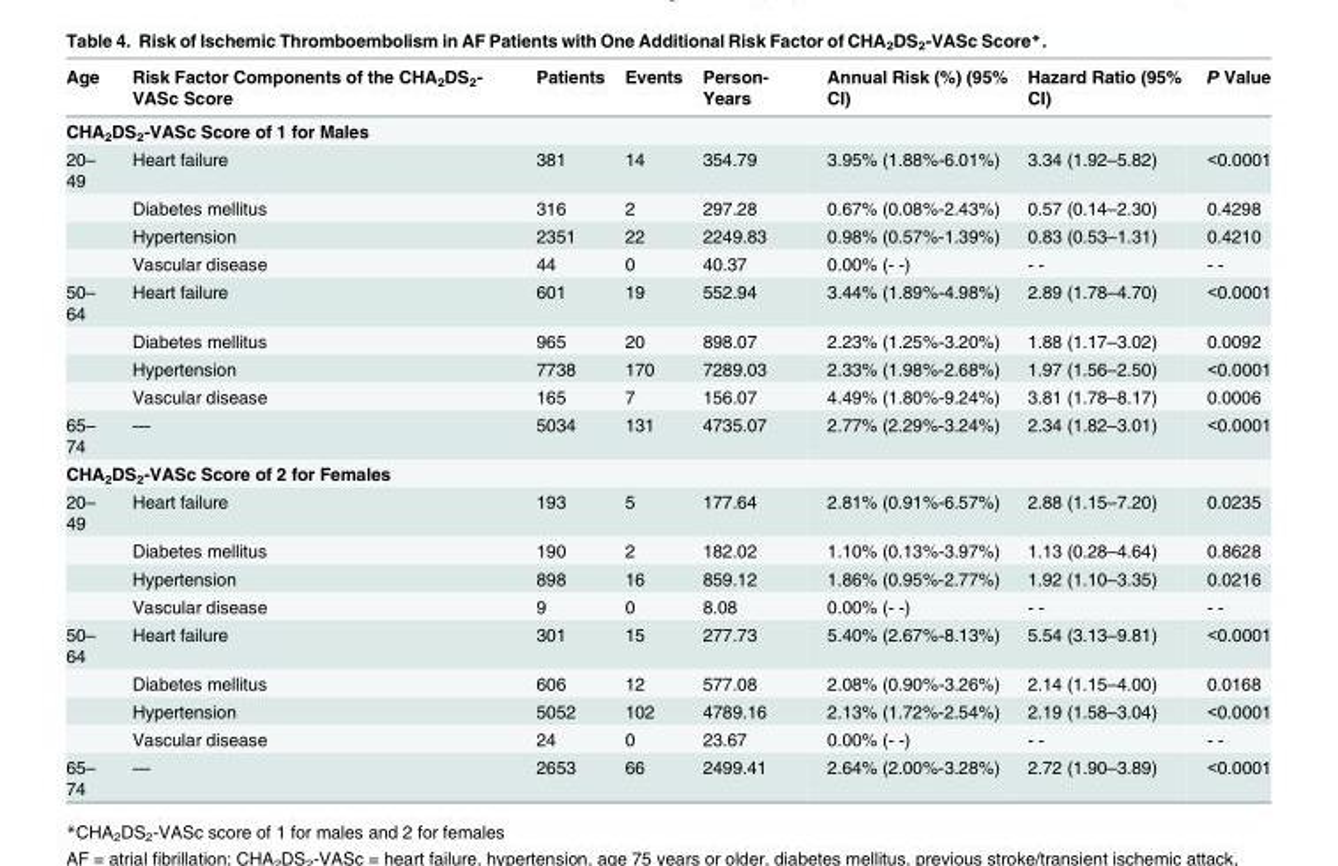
<table><thead><tr><td>Age</td><td>Risk Factor Components of the CHA<sub>2</sub>DS<sub>2</sub>- VASc Score</td><td>Patients</td><td>Events</td><td>Person- Years</td><td>Annual Risk (%) (95% CI)</td><td>Hazard Ratio (95% CI)</td><td>P Value</td></tr></thead><tbody><tr><td colspan="8">CHA<sub>2</sub>DS<sub>2</sub>-VASc Score of 1 for Males</td></tr><tr><td rowspan="4">20– 49</td><td>Heart failure</td><td>381</td><td>14</td><td>354.79</td><td>3.95% (1.88%-6.01%)</td><td>3.34 (1.92–5.82)</td><td>&lt;0.0001</td></tr><tr><td>Diabetes mellitus</td><td>316</td><td>2</td><td>297.28</td><td>0.67% (0.08%-2.43%)</td><td>0.57 (0.14–2.30)</td><td>0.4298</td></tr><tr><td>Hypertension</td><td>2351</td><td>22</td><td>2249.83</td><td>0.98% (0.57%-1.39%)</td><td>0.83 (0.53–1.31)</td><td>0.4210</td></tr><tr><td>Vascular disease</td><td>44</td><td>0</td><td>40.37</td><td>0.00% (- -)</td><td>- -</td><td>- -</td></tr><tr><td rowspan="4">50– 64</td><td>Heart failure</td><td>601</td><td>19</td><td>552.94</td><td>3.44% (1.89%-4.98%)</td><td>2.89 (1.78–4.70)</td><td>&lt;0.0001</td></tr><tr><td>Diabetes mellitus</td><td>965</td><td>20</td><td>898.07</td><td>2.23% (1.25%-3.20%)</td><td>1.88 (1.17–3.02)</td><td>0.0092</td></tr><tr><td>Hypertension</td><td>7738</td><td>170</td><td>7289.03</td><td>2.33% (1.98%-2.68%)</td><td>1.97 (1.56–2.50)</td><td>&lt;0.0001</td></tr><tr><td>Vascular disease</td><td>165</td><td>7</td><td>156.07</td><td>4.49% (1.80%-9.24%)</td><td>3.81 (1.78–8.17)</td><td>0.0006</td></tr><tr><td>65– 74</td><td>—</td><td>5034</td><td>131</td><td>4735.07</td><td>2.77% (2.29%-3.24%)</td><td>2.34 (1.82–3.01)</td><td>&lt;0.0001</td></tr><tr><td colspan="8">CHA<sub>2</sub>DS<sub>2</sub>-VASc Score of 2 for Females</td></tr><tr><td rowspan="4">20– 49</td><td>Heart failure</td><td>193</td><td>5</td><td>177.64</td><td>2.81% (0.91%-6.57%)</td><td>2.88 (1.15–7.20)</td><td>0.0235</td></tr><tr><td>Diabetes mellitus</td><td>190</td><td>2</td><td>182.02</td><td>1.10% (0.13%-3.97%)</td><td>1.13 (0.28–4.64)</td><td>0.8628</td></tr><tr><td>Hypertension</td><td>898</td><td>16</td><td>859.12</td><td>1.86% (0.95%-2.77%)</td><td>1.92 (1.10–3.35)</td><td>0.0216</td></tr><tr><td>Vascular disease</td><td>9</td><td>0</td><td>8.08</td><td>0.00% (- -)</td><td>- -</td><td>- -</td></tr><tr><td rowspan="4">50– 64</td><td>Heart failure</td><td>301</td><td>15</td><td>277.73</td><td>5.40% (2.67%-8.13%)</td><td>5.54 (3.13–9.81)</td><td>&lt;0.0001</td></tr><tr><td>Diabetes mellitus</td><td>606</td><td>12</td><td>577.08</td><td>2.08% (0.90%-3.26%)</td><td>2.14 (1.15–4.00)</td><td>0.0168</td></tr><tr><td>Hypertension</td><td>5052</td><td>102</td><td>4789.16</td><td>2.13% (1.72%-2.54%)</td><td>2.19 (1.58–3.04)</td><td>&lt;0.0001</td></tr><tr><td>Vascular disease</td><td>24</td><td>0</td><td>23.67</td><td>0.00% (- -)</td><td>- -</td><td>- -</td></tr><tr><td>65– 74</td><td>—</td><td>2653</td><td>66</td><td>2499.41</td><td>2.64% (2.00%-3.28%)</td><td>2.72 (1.90–3.89)</td><td>&lt;0.0001</td></tr></tbody></table>